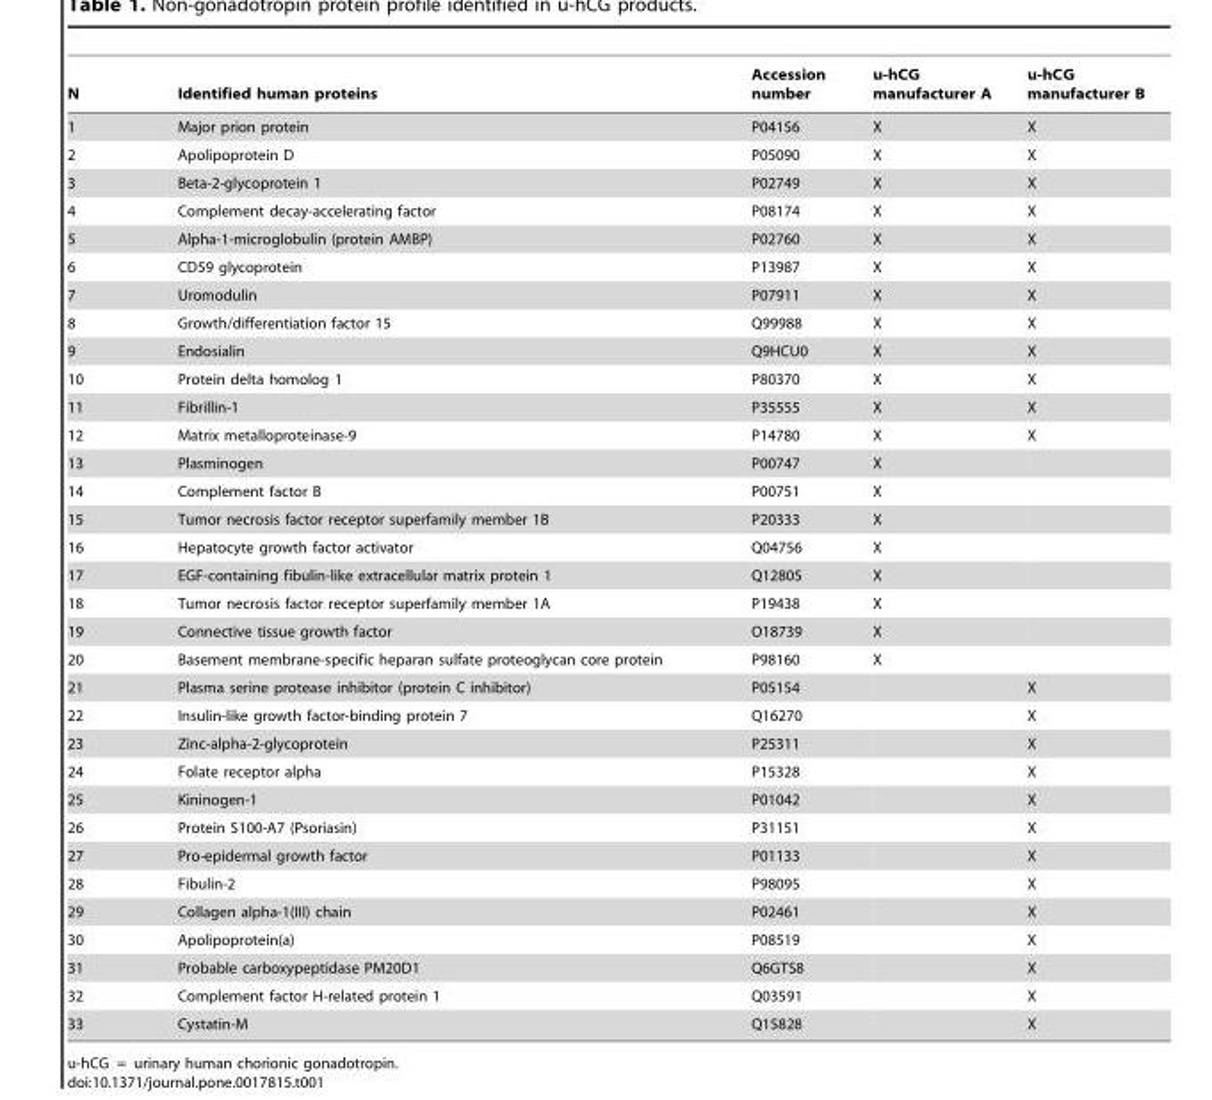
<table><thead><tr><td>N</td><td>Identified human proteins</td><td>Accession number</td><td>u-hCG manufacturer A</td><td>u-hCG manufacturer B</td></tr></thead><tbody><tr><td>1</td><td>Major prion protein</td><td>P04156</td><td>X</td><td>X</td></tr><tr><td>2</td><td>Apolipoprotein D</td><td>P05090</td><td>X</td><td>X</td></tr><tr><td>3</td><td>Beta-2-glycoprotein 1</td><td>P02749</td><td>X</td><td>X</td></tr><tr><td>4</td><td>Complement decay-accelerating factor</td><td>P08174</td><td>X</td><td>X</td></tr><tr><td>5</td><td>Alpha-1-microglobulin (protein AMBP)</td><td>P02760</td><td>X</td><td>X</td></tr><tr><td>6</td><td>CD59 glycoprotein</td><td>P13987</td><td>X</td><td>X</td></tr><tr><td>7</td><td>Uromodulin</td><td>P07911</td><td>X</td><td>X</td></tr><tr><td>8</td><td>Growth/differentiation factor 15</td><td>Q99988</td><td>X</td><td>X</td></tr><tr><td>9</td><td>Endosialin</td><td>Q9HCU0</td><td>X</td><td>X</td></tr><tr><td>10</td><td>Protein delta homolog 1</td><td>P80370</td><td>X</td><td>X</td></tr><tr><td>11</td><td>Fibrillin-1</td><td>P35555</td><td>X</td><td>X</td></tr><tr><td>12</td><td>Matrix metalloproteinase-9</td><td>P14780</td><td>X</td><td>X</td></tr><tr><td>13</td><td>Plasminogen</td><td>P00747</td><td>X</td><td></td></tr><tr><td>14</td><td>Complement factor B</td><td>P00751</td><td>X</td><td></td></tr><tr><td>15</td><td>Tumor necrosis factor receptor superfamily member 1B</td><td>P20333</td><td>X</td><td></td></tr><tr><td>16</td><td>Hepatocyte growth factor activator</td><td>Q04756</td><td>X</td><td></td></tr><tr><td>17</td><td>EGF-containing fibulin-like extracellular matrix protein 1</td><td>Q12805</td><td>X</td><td></td></tr><tr><td>18</td><td>Tumor necrosis factor receptor superfamily member 1A</td><td>P19438</td><td>X</td><td></td></tr><tr><td>19</td><td>Connective tissue growth factor</td><td>O18739</td><td>X</td><td></td></tr><tr><td>20</td><td>Basement membrane-specific heparan sulfate proteoglycan core protein</td><td>P98160</td><td>X</td><td></td></tr><tr><td>21</td><td>Plasma serine protease inhibitor (protein C inhibitor)</td><td>P05154</td><td></td><td>X</td></tr><tr><td>22</td><td>Insulin-like growth factor-binding protein 7</td><td>Q16270</td><td></td><td>X</td></tr><tr><td>23</td><td>Zinc-alpha-2-glycoprotein</td><td>P25311</td><td></td><td>X</td></tr><tr><td>24</td><td>Folate receptor alpha</td><td>P15328</td><td></td><td>X</td></tr><tr><td>25</td><td>Kininogen-1</td><td>P01042</td><td></td><td>X</td></tr><tr><td>26</td><td>Protein S100-A7 (Psoriasin)</td><td>P31151</td><td></td><td>X</td></tr><tr><td>27</td><td>Pro-epidermal growth factor</td><td>P01133</td><td></td><td>X</td></tr><tr><td>28</td><td>Fibulin-2</td><td>P98095</td><td></td><td>X</td></tr><tr><td>29</td><td>Collagen alpha-1(III) chain</td><td>P02461</td><td></td><td>X</td></tr><tr><td>30</td><td>Apolipoprotein(a)</td><td>P08519</td><td></td><td>X</td></tr><tr><td>31</td><td>Probable carboxypeptidase PM20D1</td><td>Q6GTS8</td><td></td><td>X</td></tr><tr><td>32</td><td>Complement factor H-related protein 1</td><td>Q03591</td><td></td><td>X</td></tr><tr><td>33</td><td>Cystatin-M</td><td>Q15828</td><td></td><td>X</td></tr></tbody></table>